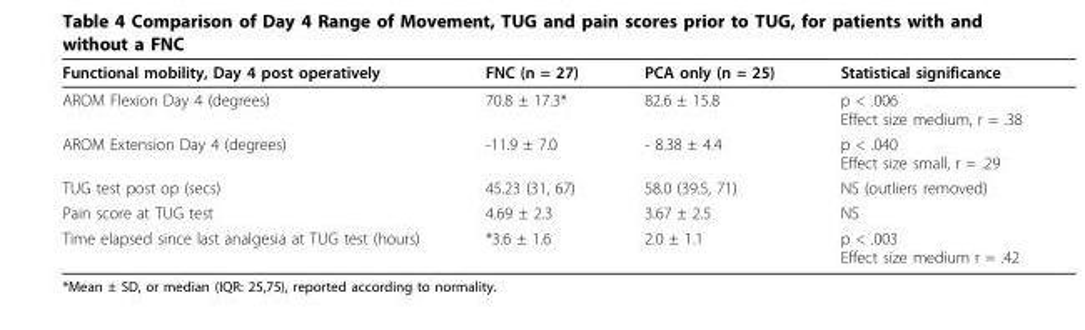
<table><thead><tr><td>Functional mobility, Day 4 post operatively</td><td>FNC (n = 27)</td><td>PCA only (n = 25)</td><td>Statistical significance</td></tr></thead><tbody><tr><td>AROM Flexion Day 4 (degrees)</td><td>70.8 ± 17.3*</td><td>82.6 ± 15.8</td><td>p &lt; .006 Effect size medium, r = .38</td></tr><tr><td>AROM Extension Day 4 (degrees)</td><td>-11.9 ± 7.0</td><td>- 8.38 ± 4.4</td><td>p &lt; .040 Effect size small, r = .29</td></tr><tr><td>TUG test post op (secs)</td><td>45.23 (31, 67)</td><td>58.0 (39.5, 71)</td><td>NS (outliers removed)</td></tr><tr><td>Pain score at TUG test</td><td>4.69 ± 2.3</td><td>3.67 ± 2.5</td><td>NS</td></tr><tr><td>Time elapsed since last analgesia at TUG test (hours)</td><td>*3.6 ± 1.6</td><td>2.0 ± 1.1</td><td>p &lt; .003 Effect size medium r = .42</td></tr></tbody></table>